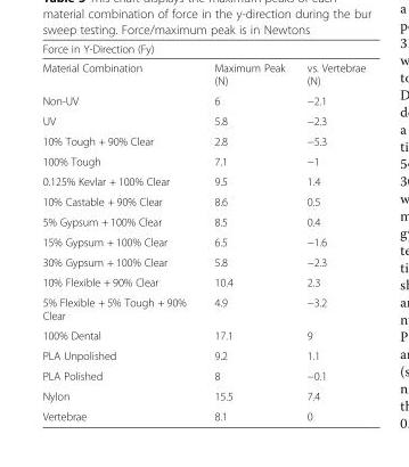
<table><thead><tr><td colspan="3">Force in Y-Direction (Fy)</td></tr><tr><td>Material Combination</td><td>Maximum Peak (N)</td><td>vs. Vertebrae (N)</td></tr></thead><tbody><tr><td>Non-UV</td><td>6</td><td>−2.1</td></tr><tr><td>UV</td><td>5.8</td><td>−2.3</td></tr><tr><td>10% Tough + 90% Clear</td><td>2.8</td><td>−5.3</td></tr><tr><td>100% Tough</td><td>7.1</td><td>−1</td></tr><tr><td>0.125% Kevlar + 100% Clear</td><td>9.5</td><td>1.4</td></tr><tr><td>10% Castable + 90% Clear</td><td>8.6</td><td>0.5</td></tr><tr><td>5% Gypsum + 100% Clear</td><td>8.5</td><td>0.4</td></tr><tr><td>15% Gypsum + 100% Clear</td><td>6.5</td><td>−1.6</td></tr><tr><td>30% Gypsum + 100% Clear</td><td>5.8</td><td>−2.3</td></tr><tr><td>10% Flexible + 90% Clear</td><td>10.4</td><td>2.3</td></tr><tr><td>5% Flexible + 5% Tough + 90% Clear</td><td>4.9</td><td>−3.2</td></tr><tr><td>100% Dental</td><td>17.1</td><td>9</td></tr><tr><td>PLA Unpolished</td><td>9.2</td><td>1.1</td></tr><tr><td>PLA Polished</td><td>8</td><td>−0.1</td></tr><tr><td>Nylon</td><td>15.5</td><td>7.4</td></tr><tr><td>Vertebrae</td><td>8.1</td><td>0</td></tr></tbody></table>